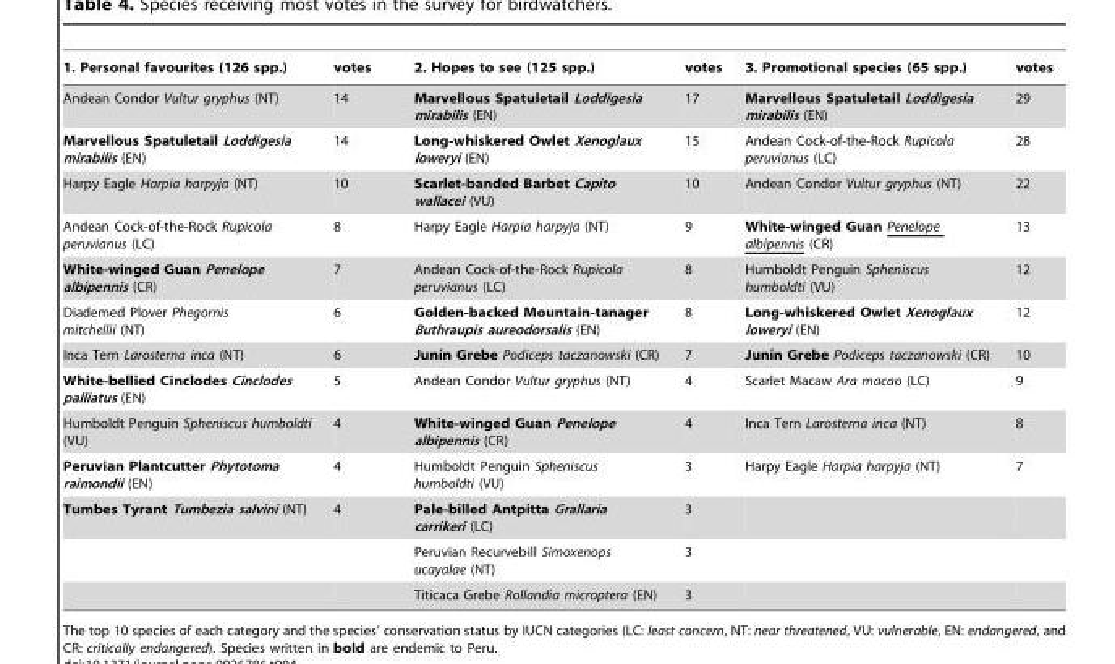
<table><thead><tr><td>1. Personal favourites (126 spp.)</td><td>votes</td><td>2. Hopes to see (125 spp.)</td><td>votes</td><td>3. Promotional species (65 spp.)</td><td>votes</td></tr></thead><tbody><tr><td>Andean Condor Vultur gryphus (NT)</td><td>14</td><td>Marvellous Spatuletail Loddigesia mirabilis (EN)</td><td>17</td><td>Marvellous Spatuletail Loddigesia mirabilis (EN)</td><td>29</td></tr><tr><td>Marvellous Spatuletail Loddigesia mirabilis (EN)</td><td>14</td><td>Long-whiskered Owlet Xenoglaux loweryi (EN)</td><td>15</td><td>Andean Cock-of-the-Rock Rupicola peruvianus (LC)</td><td>28</td></tr><tr><td>Harpy Eagle Harpia harpyja (NT)</td><td>10</td><td>Scarlet-banded Barbet Capito wallacei (VU)</td><td>10</td><td>Andean Condor Vultur gryphus (NT)</td><td>22</td></tr><tr><td>Andean Cock-of-the-Rock Rupicola peruvianus (LC)</td><td>8</td><td>Harpy Eagle Harpia harpyja (NT)</td><td>9</td><td>White-winged Guan Penelope albipennis (CR)</td><td>13</td></tr><tr><td>White-winged Guan Penelope albipennis (CR)</td><td>7</td><td>Andean Cock-of-the-Rock Rupicola peruvianus (LC)</td><td>8</td><td>Humboldt Penguin Spheniscus humboldti (VU)</td><td>12</td></tr><tr><td>Diademed Plover Phegornis mitchellii (NT)</td><td>6</td><td>Golden-backed Mountain-tanager Buthraupis aureodorsalis (EN)</td><td>8</td><td>Long-whiskered Owlet Xenoglaux loweryi (EN)</td><td>12</td></tr><tr><td>Inca Tern Larosterna inca (NT)</td><td>6</td><td>Junı´n Grebe Podiceps taczanowski (CR)</td><td>7</td><td>Junı´n Grebe Podiceps taczanowski (CR)</td><td>10</td></tr><tr><td>White-bellied Cinclodes Cinclodes palliatus (EN)</td><td>5</td><td>Andean Condor Vultur gryphus (NT)</td><td>4</td><td>Scarlet Macaw Ara macao (LC)</td><td>9</td></tr><tr><td>Humboldt Penguin Spheniscus humboldti (VU)</td><td>4</td><td>White-winged Guan Penelope albipennis (CR)</td><td>4</td><td>Inca Tern Larosterna inca (NT)</td><td>8</td></tr><tr><td>Peruvian Plantcutter Phytotoma raimondii (EN)</td><td>4</td><td>Humboldt Penguin Spheniscus humboldti (VU)</td><td>3</td><td>Harpy Eagle Harpia harpyja (NT)</td><td>7</td></tr><tr><td rowspan="3">Tumbes Tyrant Tumbezia salvini (NT)</td><td>4</td><td>Pale-billed Antpitta Grallaria carrikeri (LC)</td><td>3</td><td></td><td></td></tr><tr><td></td><td>Peruvian Recurvebill Simoxenops ucayalae (NT)</td><td>3</td><td></td><td></td></tr><tr><td></td><td>Titicaca Grebe Rollandia microptera (EN)</td><td>3</td><td></td><td></td></tr></tbody></table>